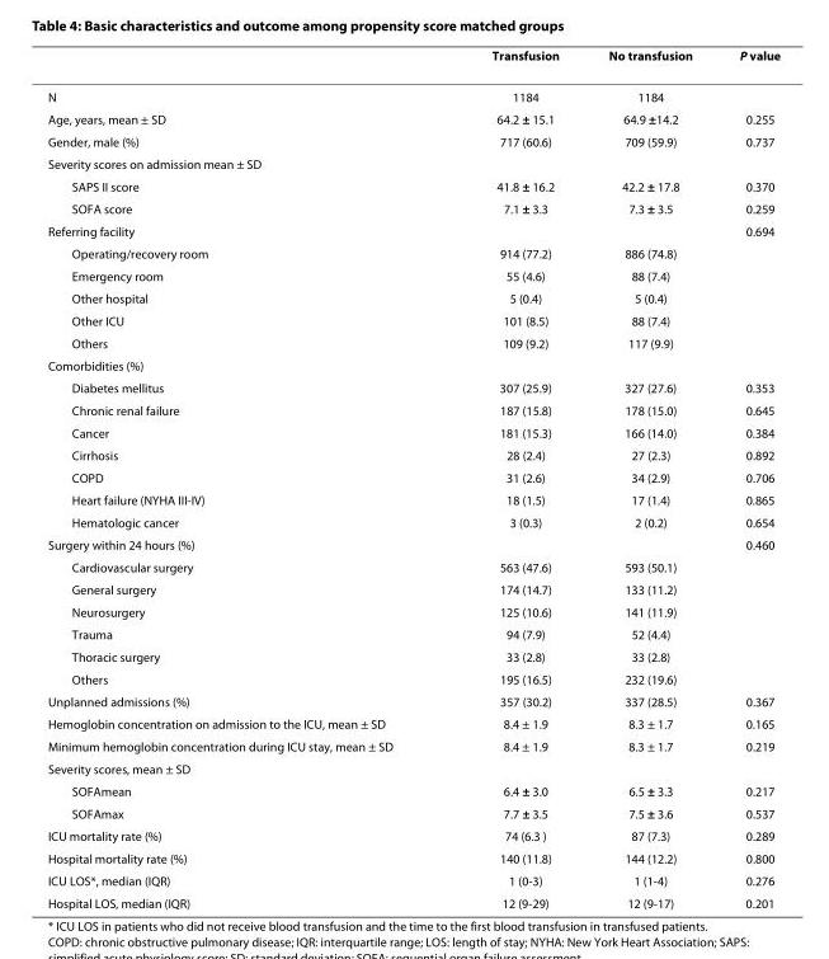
<table><thead><tr><td></td><td>Transfusion</td><td>No transfusion</td><td>P value</td></tr></thead><tbody><tr><td>N</td><td>1184</td><td>1184</td><td></td></tr><tr><td>Age, years, mean ± SD</td><td>64.2 ± 15.1</td><td>64.9 ±14.2</td><td>0.255</td></tr><tr><td>Gender, male (%)</td><td>717 (60.6)</td><td>709 (59.9)</td><td>0.737</td></tr><tr><td colspan="4">Severity scores on admission mean ± SD</td></tr><tr><td>SAPS II score</td><td>41.8 ± 16.2</td><td>42.2 ± 17.8</td><td>0.370</td></tr><tr><td>SOFA score</td><td>7.1 ± 3.3</td><td>7.3 ± 3.5</td><td>0.259</td></tr><tr><td>Referring facility</td><td></td><td></td><td>0.694</td></tr><tr><td>Operating/recovery room</td><td>914 (77.2)</td><td>886 (74.8)</td><td></td></tr><tr><td>Emergency room</td><td>55 (4.6)</td><td>88 (7.4)</td><td></td></tr><tr><td>Other hospital</td><td>5 (0.4)</td><td>5 (0.4)</td><td></td></tr><tr><td>Other ICU</td><td>101 (8.5)</td><td>88 (7.4)</td><td></td></tr><tr><td>Others</td><td>109 (9.2)</td><td>117 (9.9)</td><td></td></tr><tr><td colspan="4">Comorbidities (%)</td></tr><tr><td>Diabetes mellitus</td><td>307 (25.9)</td><td>327 (27.6)</td><td>0.353</td></tr><tr><td>Chronic renal failure</td><td>187 (15.8)</td><td>178 (15.0)</td><td>0.645</td></tr><tr><td>Cancer</td><td>181 (15.3)</td><td>166 (14.0)</td><td>0.384</td></tr><tr><td>Cirrhosis</td><td>28 (2.4)</td><td>27 (2.3)</td><td>0.892</td></tr><tr><td>COPD</td><td>31 (2.6)</td><td>34 (2.9)</td><td>0.706</td></tr><tr><td>Heart failure (NYHA III-IV)</td><td>18 (1.5)</td><td>17 (1.4)</td><td>0.865</td></tr><tr><td>Hematologic cancer</td><td>3 (0.3)</td><td>2 (0.2)</td><td>0.654</td></tr><tr><td>Surgery within 24 hours (%)</td><td></td><td></td><td>0.460</td></tr><tr><td>Cardiovascular surgery</td><td>563 (47.6)</td><td>593 (50.1)</td><td></td></tr><tr><td>General surgery</td><td>174 (14.7)</td><td>133 (11.2)</td><td></td></tr><tr><td>Neurosurgery</td><td>125 (10.6)</td><td>141 (11.9)</td><td></td></tr><tr><td>Trauma</td><td>94 (7.9)</td><td>52 (4.4)</td><td></td></tr><tr><td>Thoracic surgery</td><td>33 (2.8)</td><td>33 (2.8)</td><td></td></tr><tr><td>Others</td><td>195 (16.5)</td><td>232 (19.6)</td><td></td></tr><tr><td>Unplanned admissions (%)</td><td>357 (30.2)</td><td>337 (28.5)</td><td>0.367</td></tr><tr><td>Hemoglobin concentration on admission to the ICU, mean ± SD</td><td>8.4 ± 1.9</td><td>8.3 ± 1.7</td><td>0.165</td></tr><tr><td>Minimum hemoglobin concentration during ICU stay, mean ± SD</td><td>8.4 ± 1.9</td><td>8.3 ± 1.7</td><td>0.219</td></tr><tr><td colspan="4">Severity scores, mean ± SD</td></tr><tr><td>SOFAmean</td><td>6.4 ± 3.0</td><td>6.5 ± 3.3</td><td>0.217</td></tr><tr><td>SOFAmax</td><td>7.7 ± 3.5</td><td>7.5 ± 3.6</td><td>0.537</td></tr><tr><td>ICU mortality rate (%)</td><td>74 (6.3 )</td><td>87 (7.3)</td><td>0.289</td></tr><tr><td>Hospital mortality rate (%)</td><td>140 (11.8)</td><td>144 (12.2)</td><td>0.800</td></tr><tr><td>ICU LOS*, median (IQR)</td><td>1 (0-3)</td><td>1 (1-4)</td><td>0.276</td></tr><tr><td>Hospital LOS, median (IQR)</td><td>12 (9-29)</td><td>12 (9-17)</td><td>0.201</td></tr></tbody></table>